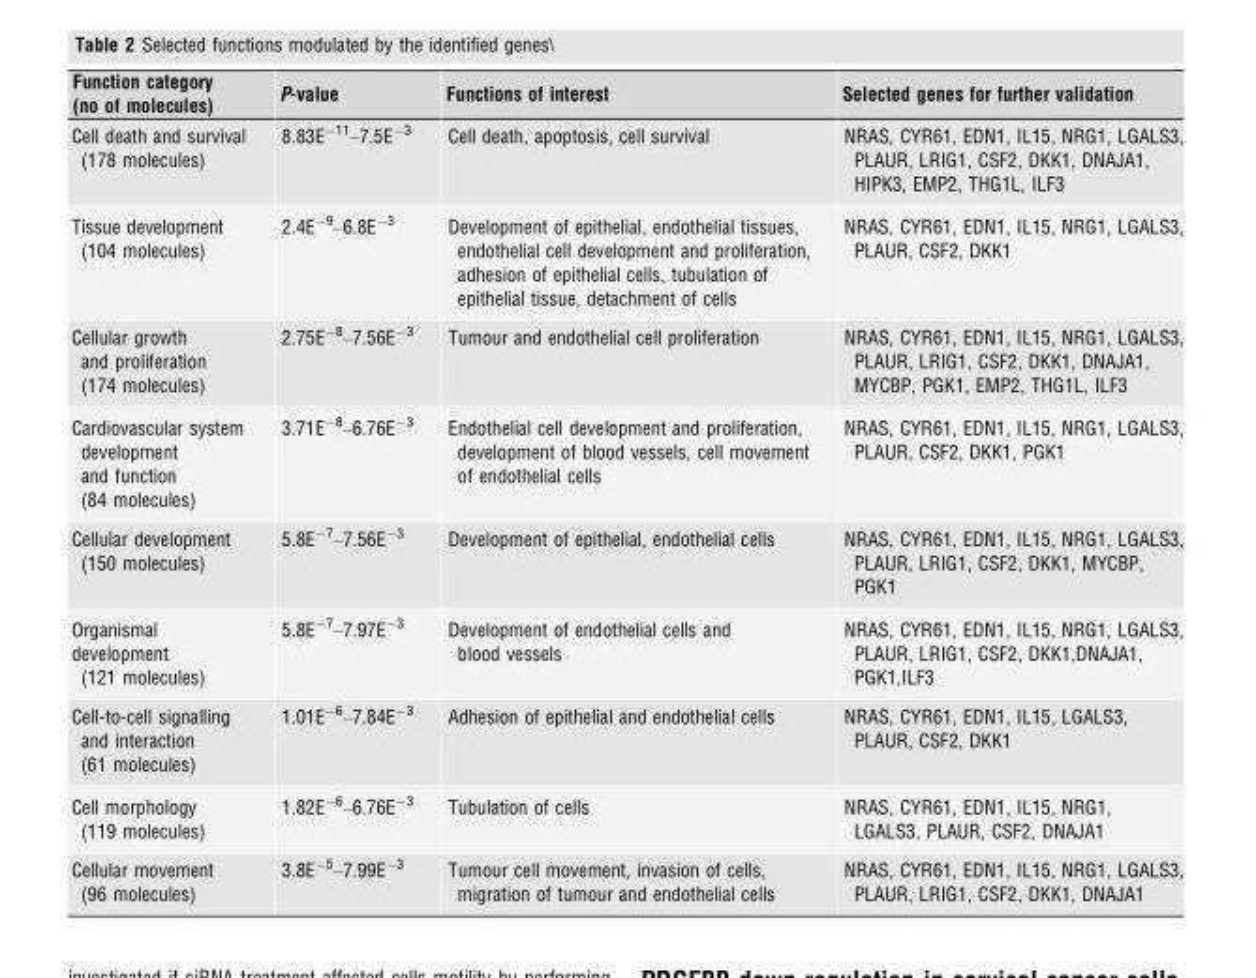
<table><thead><tr><td>Function category (no of molecules)</td><td>P-value</td><td>Functions of interest</td><td>Selected genes for further validation</td></tr></thead><tbody><tr><td>Cell death and survival (178 molecules)</td><td>8.83E<sup>−11</sup>–7.5E<sup>−3</sup></td><td>Cell death, apoptosis, cell survival</td><td>NRAS, CYR61, EDN1, IL15, NRG1, LGALS3, PLAUR, LRIG1, CSF2, DKK1, DNAJA1, HIPK3, EMP2, THG1L, ILF3</td></tr><tr><td>Tissue development (104 molecules)</td><td>2.4E<sup>−9</sup>–6.8E<sup>−3</sup></td><td>Development of epithelial, endothelial tissues, endothelial cell development and proliferation, adhesion of epithelial cells, tubulation of epithelial tissue, detachment of cells</td><td>NRAS, CYR61, EDN1, IL15, NRG1, LGALS3, PLAUR, CSF2, DKK1</td></tr><tr><td>Cellular growth and proliferation (174 molecules)</td><td>2.75E<sup>−8</sup>–7.56E<sup>−3</sup></td><td>Tumour and endothelial cell proliferation</td><td>NRAS, CYR61, EDN1, IL15, NRG1, LGALS3, PLAUR, LRIG1, CSF2, DKK1, DNAJA1, MYCBP, PGK1, EMP2, THG1L, ILF3</td></tr><tr><td>Cardiovascular system development and function (84 molecules)</td><td>3.71E<sup>−8</sup>–6.76E<sup>−3</sup></td><td>Endothelial cell development and proliferation, development of blood vessels, cell movement of endothelial cells</td><td>NRAS, CYR61, EDN1, IL15, NRG1, LGALS3, PLAUR, CSF2, DKK1, PGK1</td></tr><tr><td>Cellular development (150 molecules)</td><td>5.8E<sup>−7</sup>–7.56E<sup>−3</sup></td><td>Development of epithelial, endothelial cells</td><td>NRAS, CYR61, EDN1, IL15, NRG1, LGALS3, PLAUR, LRIG1, CSF2, DKK1, MYCBP, PGK1</td></tr><tr><td>Organismal development (121 molecules)</td><td>5.8E<sup>−7</sup>–7.97E<sup>−3</sup></td><td>Development of endothelial cells and blood vessels</td><td>NRAS, CYR61, EDN1, IL15, NRG1, LGALS3, PLAUR, LRIG1, CSF2, DKK1,DNAJA1, PGK1,ILF3</td></tr><tr><td>Cell-to-cell signalling and interaction (61 molecules)</td><td>1.01E<sup>−6</sup>–7.84E<sup>−3</sup></td><td>Adhesion of epithelial and endothelial cells</td><td>NRAS, CYR61, EDN1, IL15, LGALS3, PLAUR, CSF2, DKK1</td></tr><tr><td>Cell morphology (119 molecules)</td><td>1.82E<sup>−6</sup>–6.76E<sup>−3</sup></td><td>Tubulation of cells</td><td>NRAS, CYR61, EDN1, IL15, NRG1, LGALS3, PLAUR, CSF2, DNAJA1</td></tr><tr><td>Cellular movement (96 molecules)</td><td>3.8E<sup>−5</sup>–7.99E<sup>−3</sup></td><td>Tumour cell movement, invasion of cells, migration of tumour and endothelial cells</td><td>NRAS, CYR61, EDN1, IL15, NRG1, LGALS3, PLAUR, LRIG1, CSF2, DKK1, DNAJA1</td></tr></tbody></table>